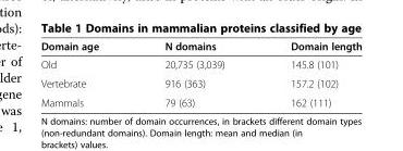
<table><thead><tr><td>Domain age</td><td>N domains</td><td>Domain length</td></tr></thead><tbody><tr><td>Old</td><td>20,735 (3,039)</td><td>145.8 (101)</td></tr><tr><td>Vertebrate</td><td>916 (363)</td><td>157.2 (102)</td></tr><tr><td>Mammals</td><td>79 (63)</td><td>162 (111)</td></tr></tbody></table>